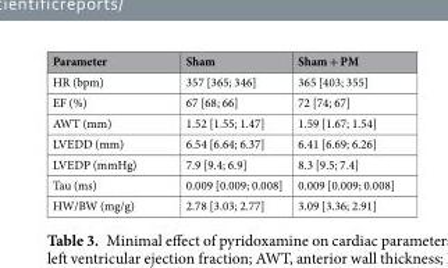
<table><thead><tr><td>Parameter</td><td>Sham</td><td>Sham + PM</td></tr></thead><tbody><tr><td>HR (bpm)</td><td>357 [365; 346]</td><td>365 [403; 355]</td></tr><tr><td>EF (%)</td><td>67 [68; 66]</td><td>72 [74; 67]</td></tr><tr><td>AWT (mm)</td><td>1.52 [1.55; 1.47]</td><td>1.59 [1.67; 1.54]</td></tr><tr><td>LVEDD (mm)</td><td>6.54 [6.64; 6.37]</td><td>6.41 [6.69; 6.26]</td></tr><tr><td>LVEDP (mmHg)</td><td>7.9 [9.4; 6.9]</td><td>8.3 [9.5; 7.4]</td></tr><tr><td>Tau (ms)</td><td>0.009 [0.009; 0.008]</td><td>0.009 [0.009; 0.008]</td></tr><tr><td>HW/BW (mg/g)</td><td>2.78 [3.03; 2.77]</td><td>3.09 [3.36; 2.91]</td></tr></tbody></table>